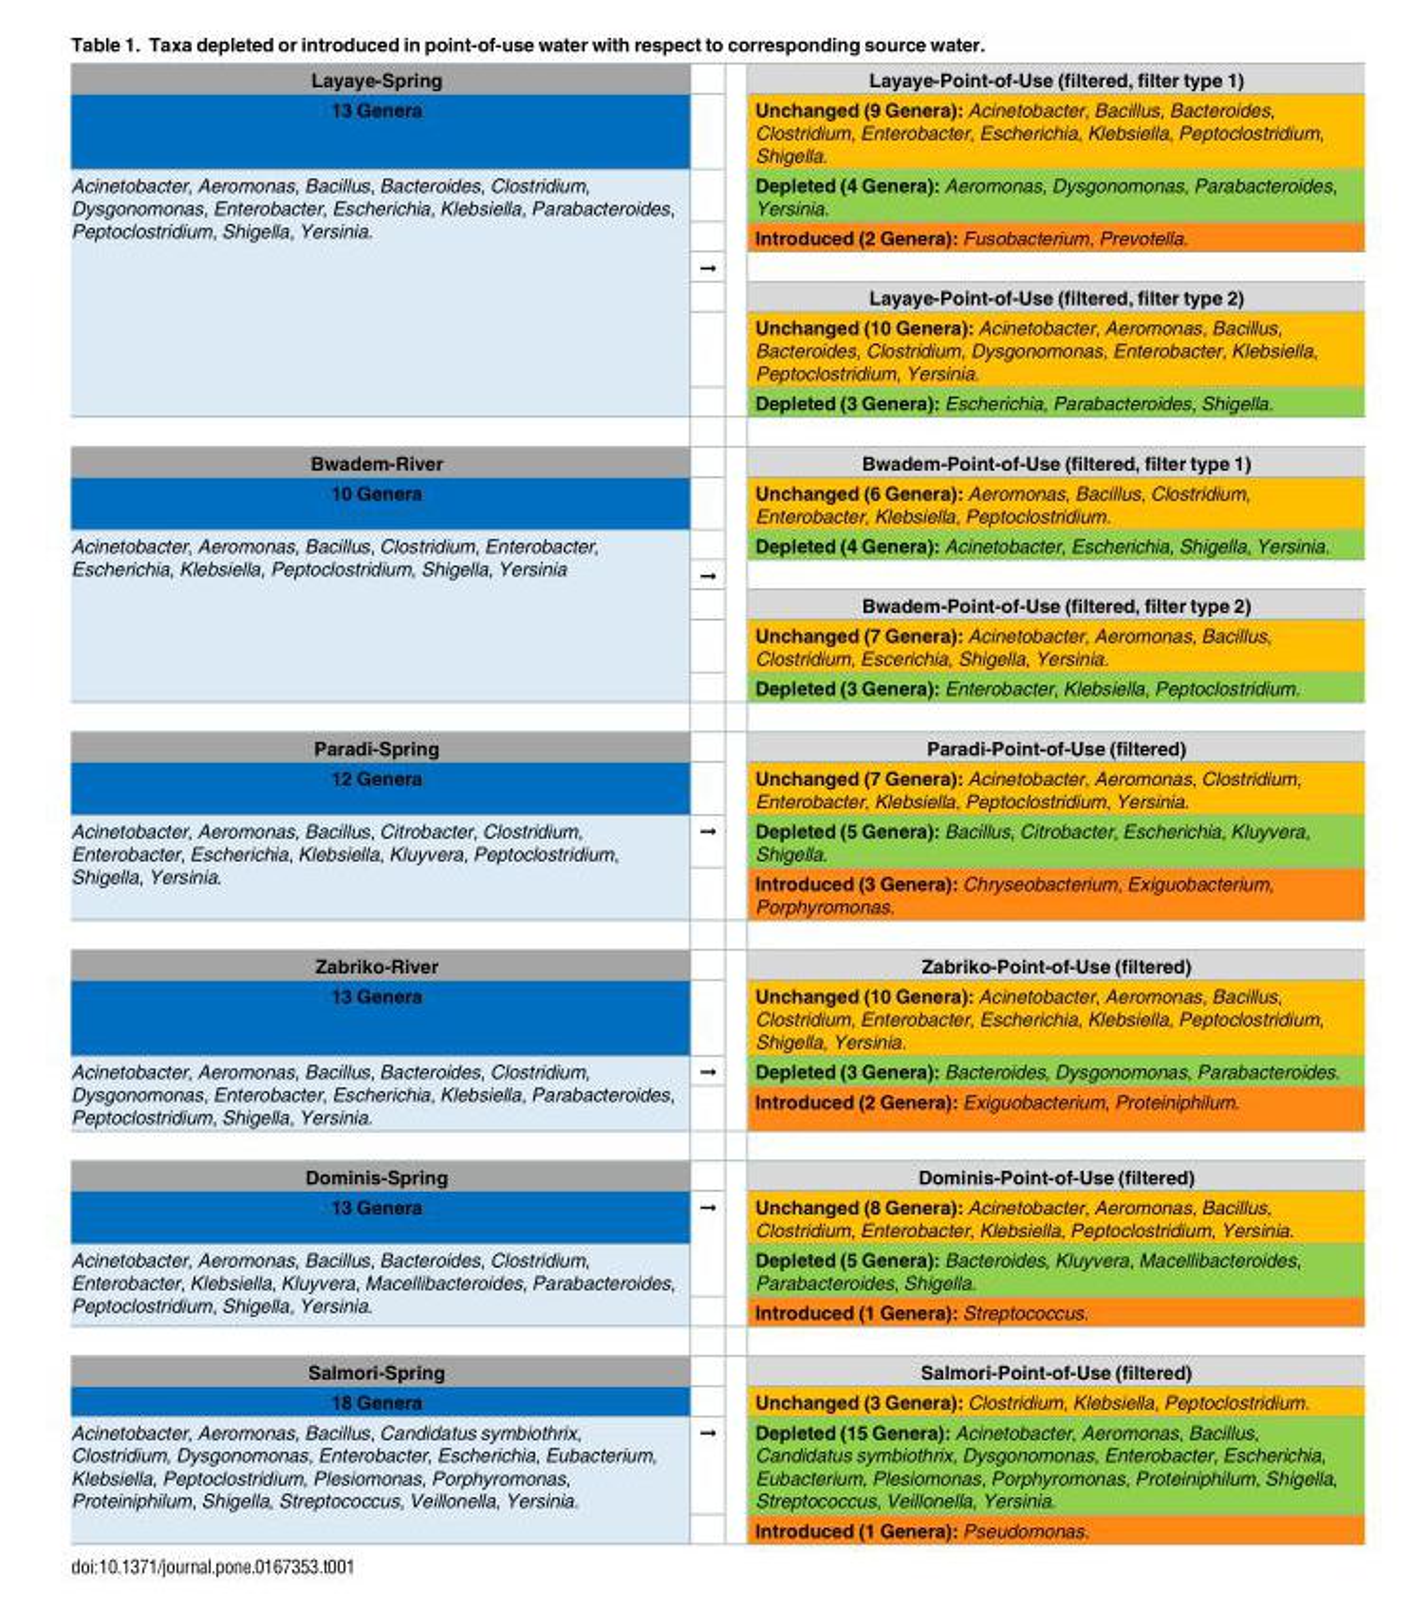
<table><tbody><tr><td>Layaye-Spring</td><td></td><td>Layaye-Point-of-Use (filtered, filter type 1)</td></tr><tr><td>13 Genera</td><td></td><td>Unchanged (9 Genera): Acinetobacter, Bacillus, Bacteroides, Clostridium, Enterobacter, Escherichia, Klebsiella, Peptoclostridium, Shigella.</td></tr><tr><td rowspan="6">Acinetobacter, Aeromonas, Bacillus, Bacteroides, Clostridium, Dysgonomonas, Enterobacter, Escherichia, Klebsiella, Parabacteroides, Peptoclostridium, Shigella, Yersinia.</td><td></td><td>Depleted (4 Genera): Aeromonas, Dysgonomonas, Parabacteroides, Yersinia.</td></tr><tr><td></td><td>Introduced (2 Genera): Fusobacterium, Prevotella.</td></tr><tr><td>➞</td><td></td></tr><tr><td></td><td>Layaye-Point-of-Use (filtered, filter type 2)</td></tr><tr><td></td><td>Unchanged (10 Genera): Acinetobacter, Aeromonas, Bacillus, Bacteroides, Clostridium, Dysgonomonas, Enterobacter, Klebsiella, Peptoclostridium, Yersinia.</td></tr><tr><td></td><td>Depleted (3 Genera): Escherichia, Parabacteroides, Shigella.</td></tr><tr><td>Bwadem-River</td><td></td><td>Bwadem-Point-of-Use (filtered, filter type 1)</td></tr><tr><td>10 Genera</td><td></td><td>Unchanged (6 Genera): Aeromonas, Bacillus, Clostridium, Enterobacter, Klebsiella, Peptoclostridium.</td></tr><tr><td rowspan="5">Acinetobacter, Aeromonas, Bacillus, Clostridium, Enterobacter, Escherichia, Klebsiella, Peptoclostridium, Shigella, Yersinia</td><td></td><td>Depleted (4 Genera): Acinetobacter, Escherichia, Shigella, Yersinia.</td></tr><tr><td>➞</td><td></td></tr><tr><td></td><td>Bwadem-Point-of-Use (filtered, filter type 2)</td></tr><tr><td></td><td>Unchanged (7 Genera): Acinetobacter, Aeromonas, Bacillus, Clostridium, Escerichia, Shigella, Yersinia.</td></tr><tr><td></td><td>Depleted (3 Genera): Enterobacter, Klebsiella, Peptoclostridium.</td></tr><tr><td>Paradi-Spring</td><td></td><td>Paradi-Point-of-Use (filtered)</td></tr><tr><td>12 Genera</td><td></td><td>Unchanged (7 Genera): Acinetobacter, Aeromonas, Clostridium, Enterobacter, Klebsiella, Peptoclostridium, Yersinia.</td></tr><tr><td rowspan="2">Acinetobacter, Aeromonas, Bacillus, Citrobacter, Clostridium, Enterobacter, Escherichia, Klebsiella, Kluyvera, Peptoclostridium, Shigella, Yersinia.</td><td>➞</td><td>Depleted (5 Genera): Bacillus, Citrobacter, Escherichia, Kluyvera, Shigella.</td></tr><tr><td></td><td>Introduced (3 Genera): Chryseobacterium, Exiguobacterium, Porphyromonas.</td></tr><tr><td>Zabriko-River</td><td></td><td>Zabriko-Point-of-Use (filtered)</td></tr><tr><td>13 Genera</td><td></td><td>Unchanged (10 Genera): Acinetobacter, Aeromonas, Bacillus, Clostridium, Enterobacter, Escherichia, Klebsiella, Peptoclostridium, Shigella, Yersinia.</td></tr><tr><td rowspan="2">Acinetobacter, Aeromonas, Bacillus, Bacteroides, Clostridium, Dysgonomonas, Enterobacter, Escherichia, Klebsiella, Parabacteroides, Peptoclostridium, Shigella, Yersinia.</td><td>➞</td><td>Depleted (3 Genera): Bacteroides, Dysgonomonas, Parabacteroides.</td></tr><tr><td></td><td>Introduced (2 Genera): Exiguobacterium, Proteiniphilum.</td></tr><tr><td>Dominis-Spring</td><td></td><td>Dominis-Point-of-Use (filtered)</td></tr><tr><td>13 Genera</td><td rowspan="2">➞</td><td>Unchanged (8 Genera): Acinetobacter, Aeromonas, Bacillus, Clostridium, Enterobacter, Klebsiella, Peptoclostridium, Yersinia.</td></tr><tr><td rowspan="2">Acinetobacter, Aeromonas, Bacillus, Bacteroides, Clostridium, Enterobacter, Klebsiella, Kluyvera, Macellibacteroides, Parabacteroides, Peptoclostridium, Shigella, Yersinia.</td><td>Depleted (5 Genera): Bacteroides, Kluyvera, Macellibacteroides, Parabacteroides, Shigella.</td></tr><tr><td></td><td>Introduced (1 Genera): Streptococcus.</td></tr><tr><td>Salmori-Spring</td><td></td><td>Salmori-Point-of-Use (filtered)</td></tr><tr><td>18 Genera</td><td></td><td>Unchanged (3 Genera): Clostridium, Klebsiella, Peptoclostridium.</td></tr><tr><td rowspan="2">Acinetobacter, Aeromonas, Bacillus, Candidatus symbiothrix, Clostridium, Dysgonomonas, Enterobacter, Escherichia, Eubacterium, Klebsiella, Peptoclostridium, Plesiomonas, Porphyromonas, Proteiniphilum, Shigella, Streptococcus, Veillonella, Yersinia.</td><td>➞</td><td>Depleted (15 Genera): Acinetobacter, Aeromonas, Bacillus, Candidatus symbiothrix, Dysgonomonas, Enterobacter, Escherichia, Eubacterium, Plesiomonas, Porphyromonas, Proteiniphilum, Shigella, Streptococcus, Veillonella, Yersinia.</td></tr><tr><td></td><td>Introduced (1 Genera): Pseudomonas.</td></tr></tbody></table>